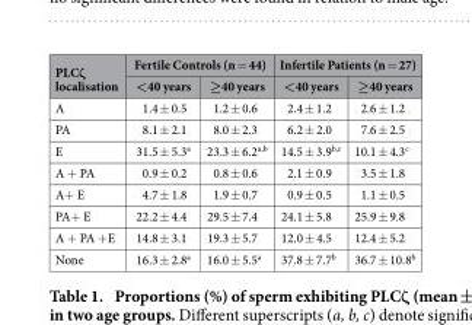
<table><thead><tr><td rowspan="2">PLCζ localisation</td><td colspan="2">Fertile Controls (n = 44)</td><td colspan="2">Infertile Patients (n = 27)</td></tr><tr><td>&lt;40 years</td><td>≥40 years</td><td>&lt;40 years</td><td>≥40 years</td></tr></thead><tbody><tr><td>A</td><td>1.4 ± 0.5</td><td>1.2 ± 0.6</td><td>2.4 ± 1.2</td><td>2.6 ± 1.2</td></tr><tr><td>PA</td><td>8.1 ± 2.1</td><td>8.0 ± 2.3</td><td>6.2 ± 2.0</td><td>7.6 ± 2.5</td></tr><tr><td>E</td><td>31.5 ± 5.3<sup>a</sup></td><td>23.3 ± 6.2<sup>a,b</sup></td><td>14.5 ± 3.9<sup>b,c</sup></td><td>10.1 ± 4.3<sup>c</sup></td></tr><tr><td>A + PA</td><td>0.9 ± 0.2</td><td>0.8 ± 0.6</td><td>2.1 ± 0.9</td><td>3.5 ± 1.8</td></tr><tr><td>A+ E</td><td>4.7 ± 1.8</td><td>1.9 ± 0.7</td><td>0.9 ± 0.5</td><td>1.1 ± 0.5</td></tr><tr><td>PA+ E</td><td>22.2 ± 4.4</td><td>29.5 ± 7.4</td><td>24.1 ± 5.8</td><td>25.9 ± 9.8</td></tr><tr><td>A + PA + E</td><td>14.8 ± 3.1</td><td>19.3 ± 5.7</td><td>12.0 ± 4.5</td><td>12.4 ± 5.2</td></tr><tr><td>None</td><td>16.3 ± 2.8<sup>a</sup></td><td>16.0 ± 5.5<sup>a</sup></td><td>37.8 ± 7.7<sup>b</sup></td><td>36.7 ± 10.8<sup>b</sup></td></tr></tbody></table>